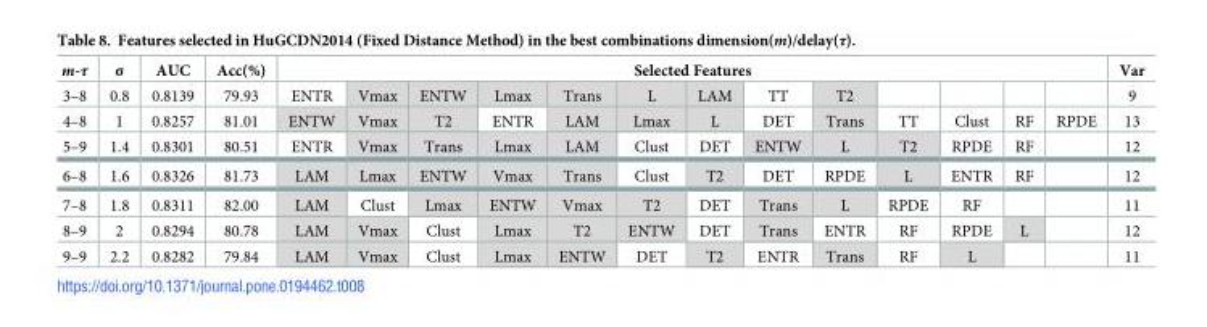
<table><thead><tr><td rowspan="2">m-τ 3–8</td><td rowspan="2">σ 0.8</td><td rowspan="2">AUC 0.8139</td><td rowspan="2">Acc(%) 79.93</td><td colspan="13">Selected Features</td><td rowspan="2">Var 9</td></tr><tr><td>ENTR</td><td>Vmax</td><td>ENTW</td><td>Lmax</td><td>Trans</td><td>L</td><td>LAM</td><td>TT</td><td>T2</td><td></td><td></td><td></td><td></td></tr></thead><tbody><tr><td>4–8</td><td>1</td><td>0.8257</td><td>81.01</td><td>ENTW</td><td>Vmax</td><td>T2</td><td>ENTR</td><td>LAM</td><td>Lmax</td><td>L</td><td>DET</td><td>Trans</td><td>TT</td><td>Clust</td><td>RF</td><td>RPDE</td><td>13</td></tr><tr><td>5–9</td><td>1.4</td><td>0.8301</td><td>80.51</td><td>ENTR</td><td>Vmax</td><td>Trans</td><td>Lmax</td><td>LAM</td><td>Clust</td><td>DET</td><td>ENTW</td><td>L</td><td>T2</td><td>RPDE</td><td>RF</td><td></td><td>12</td></tr><tr><td>6–8</td><td>1.6</td><td>0.8326</td><td>81.73</td><td>LAM</td><td>Lmax</td><td>ENTW</td><td>Vmax</td><td>Trans</td><td>Clust</td><td>T2</td><td>DET</td><td>RPDE</td><td>L</td><td>ENTR</td><td>RF</td><td></td><td>12</td></tr><tr><td>7–8</td><td>1.8</td><td>0.8311</td><td>82.00</td><td>LAM</td><td>Clust</td><td>Lmax</td><td>ENTW</td><td>Vmax</td><td>T2</td><td>DET</td><td>Trans</td><td>L</td><td>RPDE</td><td>RF</td><td></td><td></td><td>11</td></tr><tr><td>8–9</td><td>2</td><td>0.8294</td><td>80.78</td><td>LAM</td><td>Vmax</td><td>Clust</td><td>Lmax</td><td>T2</td><td>ENTW</td><td>DET</td><td>Trans</td><td>ENTR</td><td>RF</td><td>RPDE</td><td>L</td><td></td><td>12</td></tr><tr><td>9–9</td><td>2.2</td><td>0.8282</td><td>79.84</td><td>LAM</td><td>Vmax</td><td>Clust</td><td>Lmax</td><td>ENTW</td><td>DET</td><td>T2</td><td>ENTR</td><td>Trans</td><td>RF</td><td>L</td><td></td><td></td><td>11</td></tr></tbody></table>